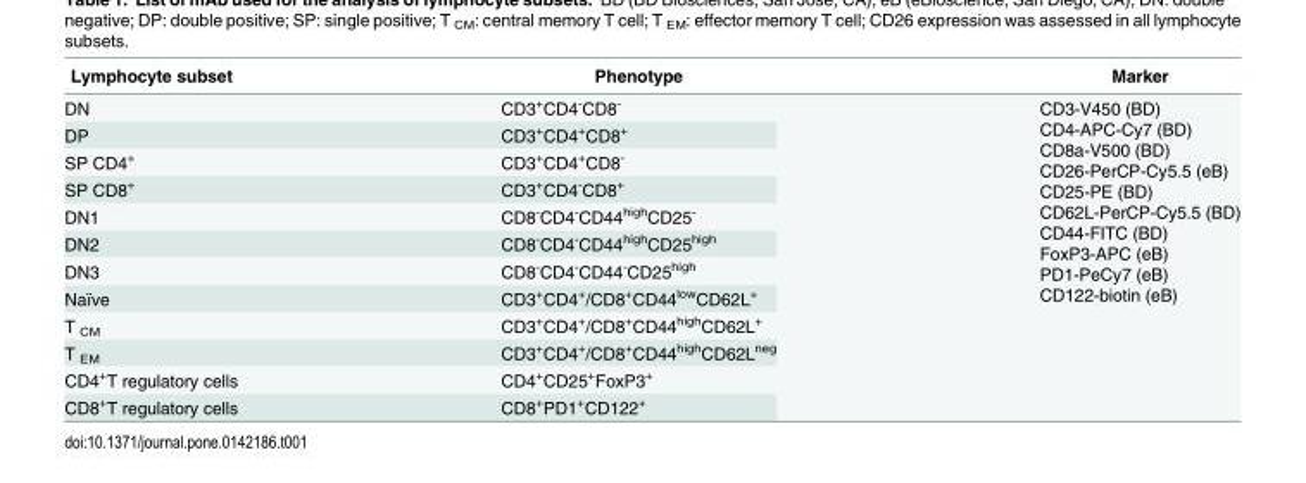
<table><thead><tr><td>Lymphocyte subset</td><td>Phenotype</td><td>Marker</td></tr></thead><tbody><tr><td>DN</td><td>CD3<sup>+</sup>CD4<sup>-</sup>CD8<sup>-</sup></td><td rowspan="12">CD3-V450 (BD) CD4-APC-Cy7 (BD) CD8a-V500 (BD) CD26-PerCP-Cy5.5 (eB) CD25-PE (BD) CD62L-PerCP-Cy5.5 (BD) CD44-FITC (BD) FoxP3-APC (eB) PD1-PeCy7 (eB) CD122-biotin (eB)</td></tr><tr><td>DP</td><td>CD3<sup>+</sup>CD4<sup>+</sup>CD8<sup>+</sup></td></tr><tr><td>SP CD4<sup>+</sup></td><td>CD3<sup>+</sup>CD4<sup>+</sup>CD8<sup>-</sup></td></tr><tr><td>SP CD8<sup>+</sup></td><td>CD3<sup>+</sup>CD4<sup>-</sup>CD8<sup>+</sup></td></tr><tr><td>DN1</td><td>CD8<sup>-</sup>CD4<sup>-</sup>CD44<sup>high</sup>CD25<sup>-</sup></td></tr><tr><td>DN2</td><td>CD8<sup>-</sup>CD4<sup>-</sup>CD44<sup>high</sup>CD25<sup>high</sup></td></tr><tr><td>DN3</td><td>CD8<sup>-</sup>CD4<sup>-</sup>CD44<sup>-</sup>CD25<sup>high</sup></td></tr><tr><td>Naïve</td><td>CD3<sup>+</sup>CD4<sup>+</sup>/CD8<sup>+</sup>CD44<sup>low</sup>CD62L<sup>+</sup></td></tr><tr><td>T <sub>CM</sub></td><td>CD3<sup>+</sup>CD4<sup>+</sup>/CD8<sup>+</sup>CD44<sup>high</sup>CD62L<sup>+</sup></td></tr><tr><td>T <sub>EM</sub></td><td>CD3<sup>+</sup>CD4<sup>+</sup>/CD8<sup>+</sup>CD44<sup>high</sup>CD62L<sup>neg</sup></td></tr><tr><td>CD4<sup>+</sup>T regulatory cells</td><td>CD4<sup>+</sup>CD25<sup>+</sup>FoxP3<sup>+</sup></td></tr><tr><td>CD8<sup>+</sup>T regulatory cells</td><td>CD8<sup>+</sup>PD1<sup>+</sup>CD122<sup>+</sup></td></tr></tbody></table>